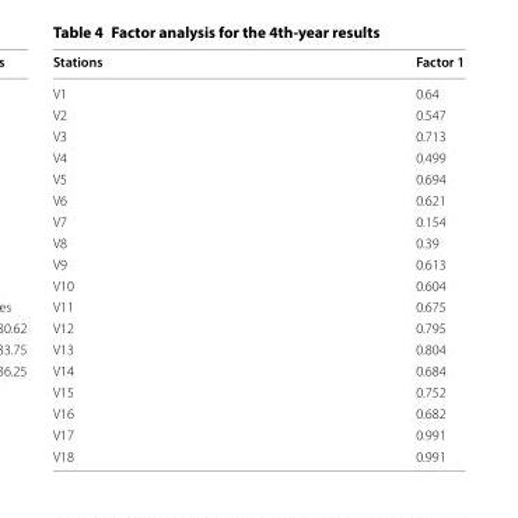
<table><thead><tr><td>Stations</td><td>Factor 1</td></tr></thead><tbody><tr><td>V1</td><td>0.64</td></tr><tr><td>V2</td><td>0.547</td></tr><tr><td>V3</td><td>0.713</td></tr><tr><td>V4</td><td>0.499</td></tr><tr><td>V5</td><td>0.694</td></tr><tr><td>V6</td><td>0.621</td></tr><tr><td>V7</td><td>0.154</td></tr><tr><td>V8</td><td>0.39</td></tr><tr><td>V9</td><td>0.613</td></tr><tr><td>V10</td><td>0.604</td></tr><tr><td>V11</td><td>0.675</td></tr><tr><td>V12</td><td>0.795</td></tr><tr><td>V13</td><td>0.804</td></tr><tr><td>V14</td><td>0.684</td></tr><tr><td>V15</td><td>0.752</td></tr><tr><td>V16</td><td>0.682</td></tr><tr><td>V17</td><td>0.991</td></tr><tr><td>V18</td><td>0.991</td></tr></tbody></table>